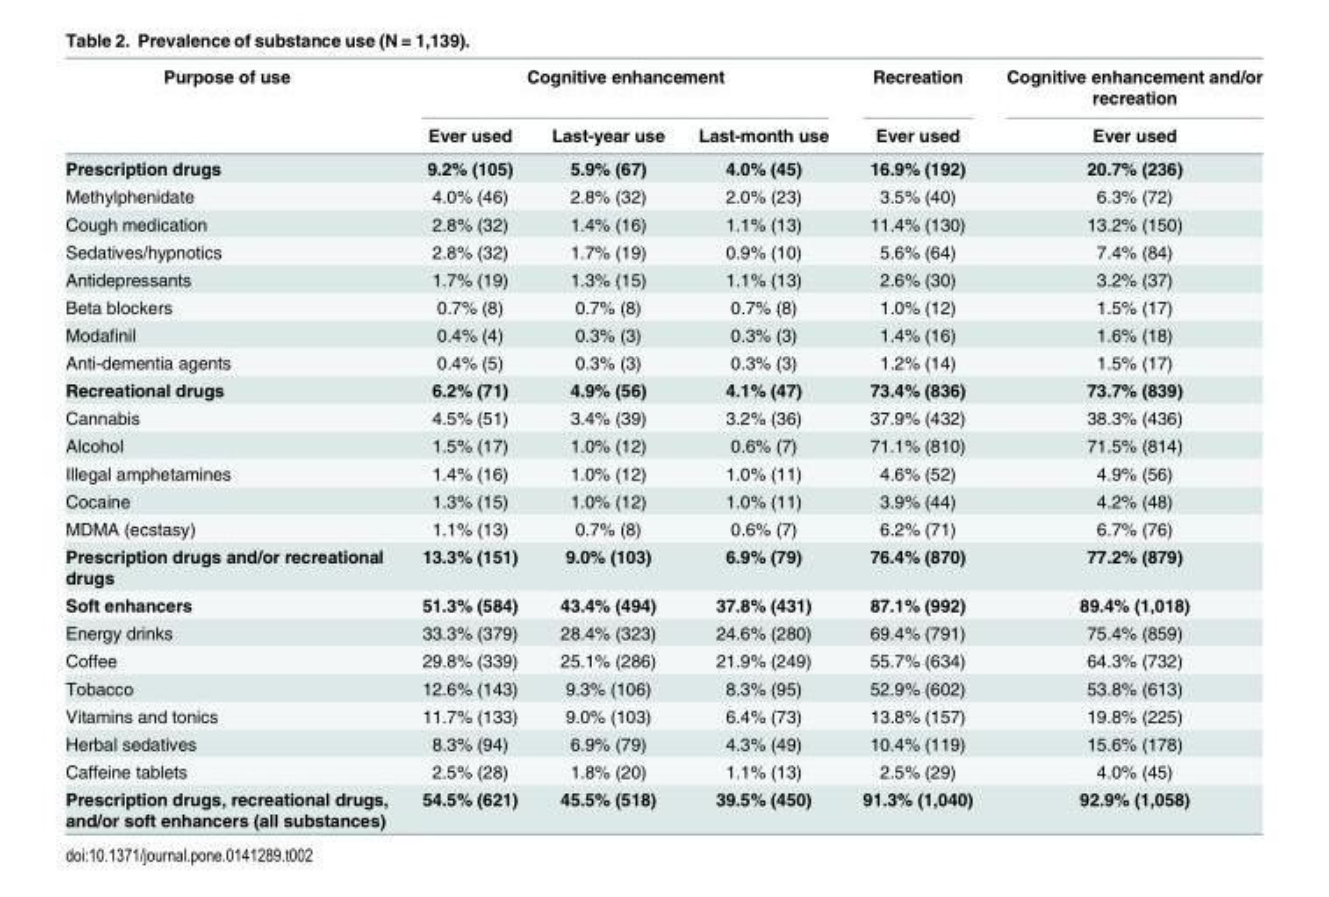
<table><thead><tr><td rowspan="2">Purpose of use</td><td colspan="3">Cognitive enhancement</td><td rowspan="2">Recreation Ever used</td><td rowspan="2">Cognitive enhancement and/or recreation Ever used</td></tr><tr><td>Ever used</td><td>Last-year use</td><td>Last-month use</td></tr></thead><tbody><tr><td>Prescription drugs</td><td>9.2% (105)</td><td>5.9% (67)</td><td>4.0% (45)</td><td>16.9% (192)</td><td>20.7% (236)</td></tr><tr><td>Methylphenidate</td><td>4.0% (46)</td><td>2.8% (32)</td><td>2.0% (23)</td><td>3.5% (40)</td><td>6.3% (72)</td></tr><tr><td>Cough medication</td><td>2.8% (32)</td><td>1.4% (16)</td><td>1.1% (13)</td><td>11.4% (130)</td><td>13.2% (150)</td></tr><tr><td>Sedatives/hypnotics</td><td>2.8% (32)</td><td>1.7% (19)</td><td>0.9% (10)</td><td>5.6% (64)</td><td>7.4% (84)</td></tr><tr><td>Antidepressants</td><td>1.7% (19)</td><td>1.3% (15)</td><td>1.1% (13)</td><td>2.6% (30)</td><td>3.2% (37)</td></tr><tr><td>Beta blockers</td><td>0.7% (8)</td><td>0.7% (8)</td><td>0.7% (8)</td><td>1.0% (12)</td><td>1.5% (17)</td></tr><tr><td>Modafinil</td><td>0.4% (4)</td><td>0.3% (3)</td><td>0.3% (3)</td><td>1.4% (16)</td><td>1.6% (18)</td></tr><tr><td>Anti-dementia agents</td><td>0.4% (5)</td><td>0.3% (3)</td><td>0.3% (3)</td><td>1.2% (14)</td><td>1.5% (17)</td></tr><tr><td>Recreational drugs</td><td>6.2% (71)</td><td>4.9% (56)</td><td>4.1% (47)</td><td>73.4% (836)</td><td>73.7% (839)</td></tr><tr><td>Cannabis</td><td>4.5% (51)</td><td>3.4% (39)</td><td>3.2% (36)</td><td>37.9% (432)</td><td>38.3% (436)</td></tr><tr><td>Alcohol</td><td>1.5% (17)</td><td>1.0% (12)</td><td>0.6% (7)</td><td>71.1% (810)</td><td>71.5% (814)</td></tr><tr><td>Illegal amphetamines</td><td>1.4% (16)</td><td>1.0% (12)</td><td>1.0% (11)</td><td>4.6% (52)</td><td>4.9% (56)</td></tr><tr><td>Cocaine</td><td>1.3% (15)</td><td>1.0% (12)</td><td>1.0% (11)</td><td>3.9% (44)</td><td>4.2% (48)</td></tr><tr><td>MDMA (ecstasy)</td><td>1.1% (13)</td><td>0.7% (8)</td><td>0.6% (7)</td><td>6.2% (71)</td><td>6.7% (76)</td></tr><tr><td>Prescription drugs and/or recreational drugs</td><td>13.3% (151)</td><td>9.0% (103)</td><td>6.9% (79)</td><td>76.4% (870)</td><td>77.2% (879)</td></tr><tr><td>Soft enhancers</td><td>51.3% (584)</td><td>43.4% (494)</td><td>37.8% (431)</td><td>87.1% (992)</td><td>89.4% (1,018)</td></tr><tr><td>Energy drinks</td><td>33.3% (379)</td><td>28.4% (323)</td><td>24.6% (280)</td><td>69.4% (791)</td><td>75.4% (859)</td></tr><tr><td>Coffee</td><td>29.8% (339)</td><td>25.1% (286)</td><td>21.9% (249)</td><td>55.7% (634)</td><td>64.3% (732)</td></tr><tr><td>Tobacco</td><td>12.6% (143)</td><td>9.3% (106)</td><td>8.3% (95)</td><td>52.9% (602)</td><td>53.8% (613)</td></tr><tr><td>Vitamins and tonics</td><td>11.7% (133)</td><td>9.0% (103)</td><td>6.4% (73)</td><td>13.8% (157)</td><td>19.8% (225)</td></tr><tr><td>Herbal sedatives</td><td>8.3% (94)</td><td>6.9% (79)</td><td>4.3% (49)</td><td>10.4% (119)</td><td>15.6% (178)</td></tr><tr><td>Caffeine tablets</td><td>2.5% (28)</td><td>1.8% (20)</td><td>1.1% (13)</td><td>2.5% (29)</td><td>4.0% (45)</td></tr><tr><td>Prescription drugs, recreational drugs, and/or soft enhancers (all substances)</td><td>54.5% (621)</td><td>45.5% (518)</td><td>39.5% (450)</td><td>91.3% (1,040)</td><td>92.9% (1,058)</td></tr></tbody></table>